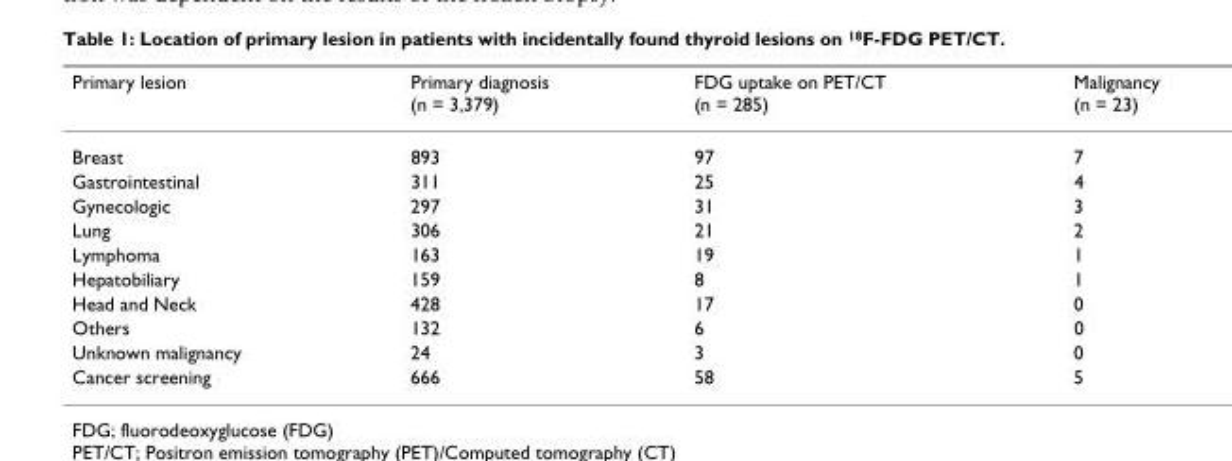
<table><thead><tr><td>Primary lesion</td><td>Primary diagnosis (n = 3,379)</td><td>FDG uptake on PET/CT (n = 285)</td><td>Malignancy (n = 23)</td></tr></thead><tbody><tr><td>Breast</td><td>893</td><td>97</td><td>7</td></tr><tr><td>Gastrointestinal</td><td>311</td><td>25</td><td>4</td></tr><tr><td>Gynecologic</td><td>297</td><td>31</td><td>3</td></tr><tr><td>Lung</td><td>306</td><td>21</td><td>2</td></tr><tr><td>Lymphoma</td><td>163</td><td>19</td><td>1</td></tr><tr><td>Hepatobiliary</td><td>159</td><td>8</td><td>1</td></tr><tr><td>Head and Neck</td><td>428</td><td>17</td><td>0</td></tr><tr><td>Others</td><td>132</td><td>6</td><td>0</td></tr><tr><td>Unknown malignancy</td><td>24</td><td>3</td><td>0</td></tr><tr><td>Cancer screening</td><td>666</td><td>58</td><td>5</td></tr></tbody></table>